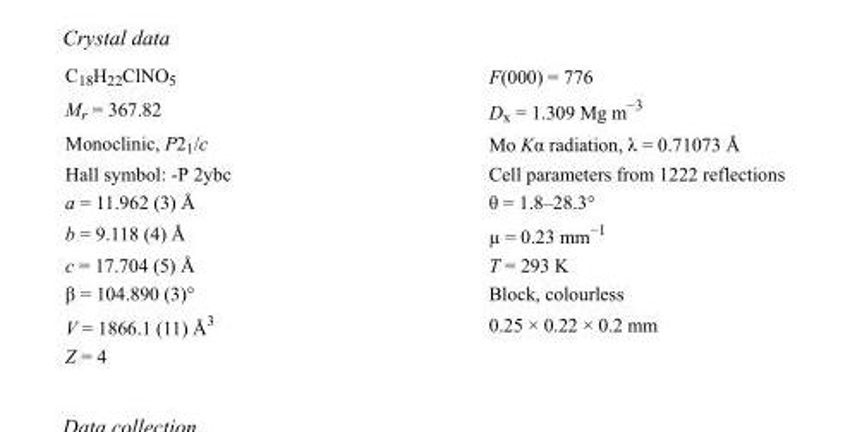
<table><tbody><tr><td>C<sub>18</sub>H<sub>22</sub>ClNO<sub>5</sub></td><td>F(000) = 776</td></tr><tr><td>M<sub>r</sub> = 367.82</td><td>D<sub>x</sub> = 1.309 Mg m<sup>−3</sup></td></tr><tr><td>Monoclinic, P2<sub>1</sub>/c</td><td>Mo Kα radiation, λ = 0.71073 Å</td></tr><tr><td>Hall symbol: -P 2ybc</td><td>Cell parameters from 1222 reflections</td></tr><tr><td>a = 11.962 (3) Å</td><td>θ = 1.8–28.3°</td></tr><tr><td>b = 9.118 (4) Å</td><td>µ = 0.23 mm<sup>−1</sup></td></tr><tr><td>c = 17.704 (5) Å</td><td>T = 293 K</td></tr><tr><td>β = 104.890 (3)°</td><td>Block, colourless</td></tr><tr><td>V = 1866.1 (11) Å<sup>3</sup></td><td>0.25 × 0.22 × 0.2 mm</td></tr><tr><td>Z = 4</td><td></td></tr></tbody></table>